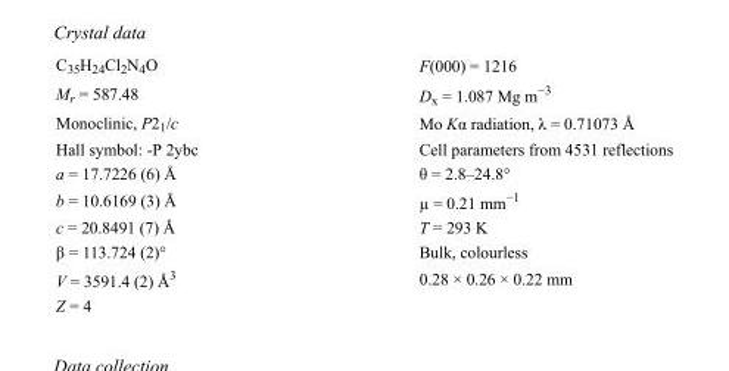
<table><tbody><tr><td>C<sub>35</sub>H<sub>24</sub>Cl<sub>2</sub>N<sub>4</sub>O</td><td>F(000) = 1216</td></tr><tr><td>M<sub>r</sub> = 587.48</td><td>D<sub>x</sub> = 1.087 Mg m<sup>−3</sup></td></tr><tr><td>Monoclinic, P2<sub>1</sub>/c</td><td>Mo Kα radiation, λ = 0.71073 Å</td></tr><tr><td>Hall symbol: -P 2ybc</td><td>Cell parameters from 4531 reflections</td></tr><tr><td>a = 17.7226 (6) Å</td><td>θ = 2.8–24.8°</td></tr><tr><td>b = 10.6169 (3) Å</td><td>µ = 0.21 mm<sup>−1</sup></td></tr><tr><td>c = 20.8491 (7) Å</td><td>T = 293 K</td></tr><tr><td>β = 113.724 (2)°</td><td>Bulk, colourless</td></tr><tr><td>V = 3591.4 (2) Å<sup>3</sup></td><td>0.28 × 0.26 × 0.22 mm</td></tr><tr><td>Z = 4</td><td></td></tr></tbody></table>